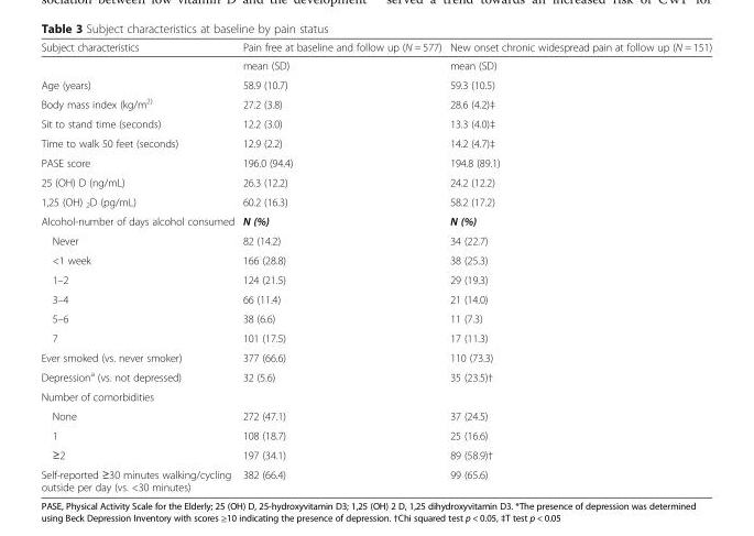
<table><thead><tr><td>Subject characteristics</td><td>Pain free at baseline and follow up (N = 577)</td><td>New onset chronic widespread pain at follow up (N = 151)</td></tr></thead><tbody><tr><td></td><td>mean (SD)</td><td>mean (SD)</td></tr><tr><td>Age (years)</td><td>58.9 (10.7)</td><td>59.3 (10.5)</td></tr><tr><td>Body mass index (kg/m<sup>2)</sup></td><td>27.2 (3.8)</td><td>28.6 (4.2)‡</td></tr><tr><td>Sit to stand time (seconds)</td><td>12.2 (3.0)</td><td>13.3 (4.0)‡</td></tr><tr><td>Time to walk 50 feet (seconds)</td><td>12.9 (2.2)</td><td>14.2 (4.7)‡</td></tr><tr><td>PASE score</td><td>196.0 (94.4)</td><td>194.8 (89.1)</td></tr><tr><td>25 (OH) D (ng/mL)</td><td>26.3 (12.2)</td><td>24.2 (12.2)</td></tr><tr><td>1,25 (OH) <sub>2</sub>D (pg/mL)</td><td>60.2 (16.3)</td><td>58.2 (17.2)</td></tr><tr><td>Alcohol-number of days alcohol consumed</td><td>N (%)</td><td>N (%)</td></tr><tr><td>Never</td><td>82 (14.2)</td><td>34 (22.7)</td></tr><tr><td>&lt;1 week</td><td>166 (28.8)</td><td>38 (25.3)</td></tr><tr><td>1–2</td><td>124 (21.5)</td><td>29 (19.3)</td></tr><tr><td>3–4</td><td>66 (11.4)</td><td>21 (14.0)</td></tr><tr><td>5–6</td><td>38 (6.6)</td><td>11 (7.3)</td></tr><tr><td>7</td><td>101 (17.5)</td><td>17 (11.3)</td></tr><tr><td>Ever smoked (vs. never smoker)</td><td>377 (66.6)</td><td>110 (73.3)</td></tr><tr><td>Depression<sup>a</sup> (vs. not depressed)</td><td>32 (5.6)</td><td>35 (23.5)†</td></tr><tr><td colspan="3">Number of comorbidities</td></tr><tr><td>None</td><td>272 (47.1)</td><td>37 (24.5)</td></tr><tr><td>1</td><td>108 (18.7)</td><td>25 (16.6)</td></tr><tr><td>≥2</td><td>197 (34.1)</td><td>89 (58.9)†</td></tr><tr><td>Self-reported ≥30 minutes walking/cycling outside per day (vs. &lt;30 minutes)</td><td>382 (66.4)</td><td>99 (65.6)</td></tr></tbody></table>